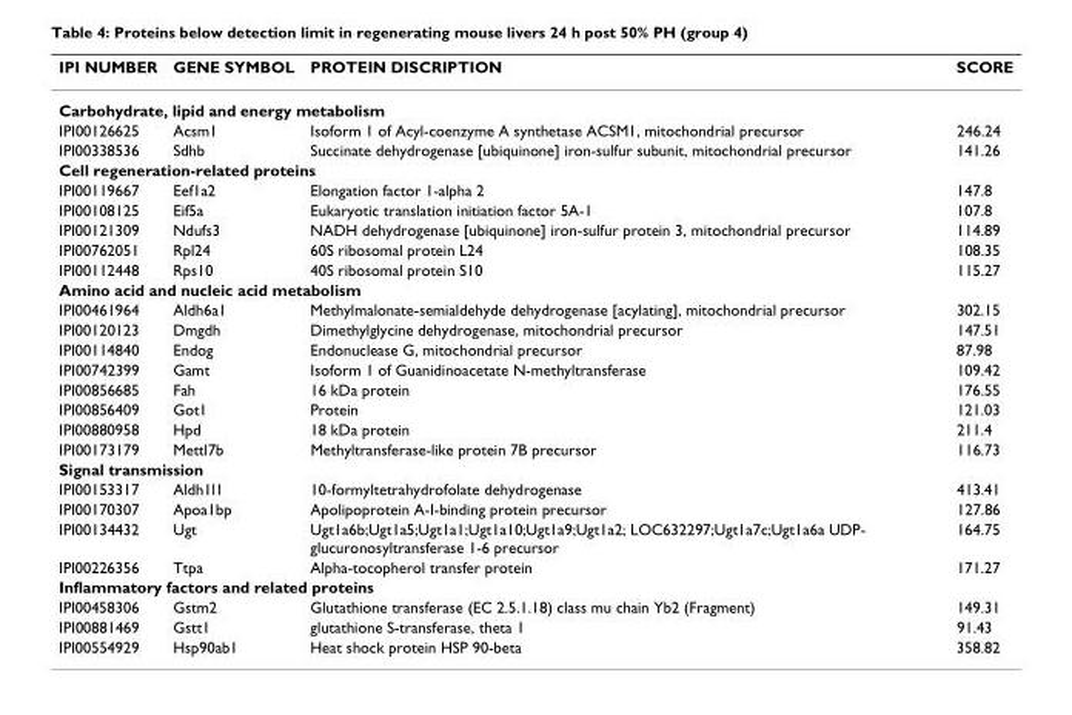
<table><thead><tr><td>IPI NUMBER</td><td>GENE SYMBOL</td><td>PROTEIN DISCRIPTION</td><td>SCORE</td></tr></thead><tbody><tr><td colspan="4">Carbohydrate, lipid and energy metabolism</td></tr><tr><td>IPI00126625</td><td>Acsm1</td><td>Isoform 1 of Acyl-coenzyme A synthetase ACSM1, mitochondrial precursor</td><td>246.24</td></tr><tr><td>IPI00338536</td><td>Sdhb</td><td>Succinate dehydrogenase [ubiquinone] iron-sulfur subunit, mitochondrial precursor</td><td>141.26</td></tr><tr><td colspan="4">Cell regeneration-related proteins</td></tr><tr><td>IPI00119667</td><td>Eef1a2</td><td>Elongation factor 1-alpha 2</td><td>147.8</td></tr><tr><td>IPI00108125</td><td>Eif5a</td><td>Eukaryotic translation initiation factor 5A-1</td><td>107.8</td></tr><tr><td>IPI00121309</td><td>Ndufs3</td><td>NADH dehydrogenase [ubiquinone] iron-sulfur protein 3, mitochondrial precursor</td><td>114.89</td></tr><tr><td>IPI00762051</td><td>Rpl24</td><td>60S ribosomal protein L24</td><td>108.35</td></tr><tr><td>IPI00112448</td><td>Rps10</td><td>40S ribosomal protein S10</td><td>115.27</td></tr><tr><td colspan="4">Amino acid and nucleic acid metabolism</td></tr><tr><td>IPI00461964</td><td>Aldh6a1</td><td>Methylmalonate-semialdehyde dehydrogenase [acylating], mitochondrial precursor</td><td>302.15</td></tr><tr><td>IPI00120123</td><td>Dmgdh</td><td>Dimethylglycine dehydrogenase, mitochondrial precursor</td><td>147.51</td></tr><tr><td>IPI00114840</td><td>Endog</td><td>Endonuclease G, mitochondrial precursor</td><td>87.98</td></tr><tr><td>IPI00742399</td><td>Gamt</td><td>Isoform 1 of Guanidinoacetate N-methyltransferase</td><td>109.42</td></tr><tr><td>IPI00856685</td><td>Fah</td><td>16 kDa protein</td><td>176.55</td></tr><tr><td>IPI00856409</td><td>Got1</td><td>Protein</td><td>121.03</td></tr><tr><td>IPI00880958</td><td>Hpd</td><td>18 kDa protein</td><td>211.4</td></tr><tr><td>IPI00173179</td><td>Mettl7b</td><td>Methyltransferase-like protein 7B precursor</td><td>116.73</td></tr><tr><td colspan="4">Signal transmission</td></tr><tr><td>IPI00153317</td><td>Aldh1l1</td><td>10-formyltetrahydrofolate dehydrogenase</td><td>413.41</td></tr><tr><td>IPI00170307</td><td>Apoa1bp</td><td>Apolipoprotein A-I-binding protein precursor</td><td>127.86</td></tr><tr><td>IPI00134432</td><td>Ugt</td><td>Ugt1a6b;Ugt1a5;Ugt1a1;Ugt1a10;Ugt1a9;Ugt1a2; LOC632297;Ugt1a7c;Ugt1a6a UDP- glucuronosyltransferase 1-6 precursor</td><td>164.75</td></tr><tr><td>IPI00226356</td><td>Ttpa</td><td>Alpha-tocopherol transfer protein</td><td>171.27</td></tr><tr><td colspan="4">Inflammatory factors and related proteins</td></tr><tr><td>IPI00458306</td><td>Gstm2</td><td>Glutathione transferase (EC 2.5.1.18) class mu chain Yb2 (Fragment)</td><td>149.31</td></tr><tr><td>IPI00881469</td><td>Gstt1</td><td>glutathione S-transferase, theta 1</td><td>91.43</td></tr><tr><td>IPI00554929</td><td>Hsp90ab1</td><td>Heat shock protein HSP 90-beta</td><td>358.82</td></tr></tbody></table>